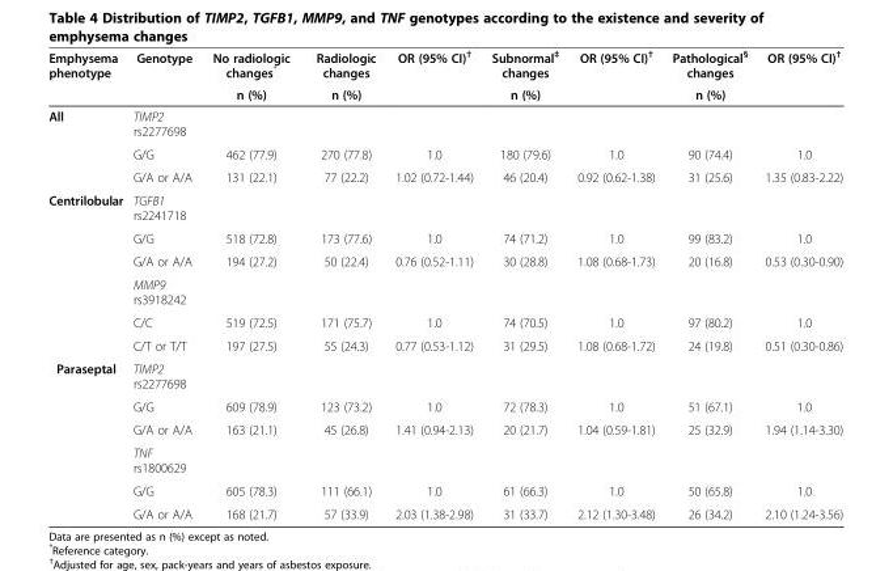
<table><thead><tr><td rowspan="2">Emphysema phenotype</td><td rowspan="2">Genotype</td><td rowspan="2">No radiologic changes* n (%)</td><td rowspan="2">Radiologic changes n (%)</td><td rowspan="2">OR (95% CI)<sup>†</sup></td><td rowspan="2">Subnormal<sup>‡</sup> changes n (%)</td><td rowspan="2">OR (95% CI)<sup>†</sup></td><td rowspan="2">Pathological<sup>§</sup> changes n (%)</td><td rowspan="2">OR (95% CI)<sup>†</sup></td></tr><tr></tr></thead><tbody><tr><td rowspan="3">All</td><td>TIMP2 rs2277698</td><td></td><td></td><td></td><td></td><td></td><td></td><td></td></tr><tr><td>G/G</td><td>462 (77.9)</td><td>270 (77.8)</td><td>1.0</td><td>180 (79.6)</td><td>1.0</td><td>90 (74.4)</td><td>1.0</td></tr><tr><td>G/A or A/A</td><td>131 (22.1)</td><td>77 (22.2)</td><td>1.02 (0.72-1.44)</td><td>46 (20.4)</td><td>0.92 (0.62-1.38)</td><td>31 (25.6)</td><td>1.35 (0.83-2.22)</td></tr><tr><td rowspan="6">Centrilobular</td><td>TGFB1 rs2241718</td><td></td><td></td><td></td><td></td><td></td><td></td><td></td></tr><tr><td>G/G</td><td>518 (72.8)</td><td>173 (77.6)</td><td>1.0</td><td>74 (71.2)</td><td>1.0</td><td>99 (83.2)</td><td>1.0</td></tr><tr><td>G/A or A/A</td><td>194 (27.2)</td><td>50 (22.4)</td><td>0.76 (0.52-1.11)</td><td>30 (28.8)</td><td>1.08 (0.68-1.73)</td><td>20 (16.8)</td><td>0.53 (0.30-0.90)</td></tr><tr><td>MMP9 rs3918242</td><td></td><td></td><td></td><td></td><td></td><td></td><td></td></tr><tr><td>C/C</td><td>519 (72.5)</td><td>171 (75.7)</td><td>1.0</td><td>74 (70.5)</td><td>1.0</td><td>97 (80.2)</td><td>1.0</td></tr><tr><td>C/T or T/T</td><td>197 (27.5)</td><td>55 (24.3)</td><td>0.77 (0.53-1.12)</td><td>31 (29.5)</td><td>1.08 (0.68-1.72)</td><td>24 (19.8)</td><td>0.51 (0.30-0.86)</td></tr><tr><td rowspan="6">Paraseptal</td><td>TIMP2 rs2277698</td><td></td><td></td><td></td><td></td><td></td><td></td><td></td></tr><tr><td>G/G</td><td>609 (78.9)</td><td>123 (73.2)</td><td>1.0</td><td>72 (78.3)</td><td>1.0</td><td>51 (67.1)</td><td>1.0</td></tr><tr><td>G/A or A/A</td><td>163 (21.1)</td><td>45 (26.8)</td><td>1.41 (0.94-2.13)</td><td>20 (21.7)</td><td>1.04 (0.59-1.81)</td><td>25 (32.9)</td><td>1.94 (1.14-3.30)</td></tr><tr><td>TNF rs1800629</td><td></td><td></td><td></td><td></td><td></td><td></td><td></td></tr><tr><td>G/G</td><td>605 (78.3)</td><td>111 (66.1)</td><td>1.0</td><td>61 (66.3)</td><td>1.0</td><td>50 (65.8)</td><td>1.0</td></tr><tr><td>G/A or A/A</td><td>168 (21.7)</td><td>57 (33.9)</td><td>2.03 (1.38-2.98)</td><td>31 (33.7)</td><td>2.12 (1.30-3.48)</td><td>26 (34.2)</td><td>2.10 (1.24-3.56)</td></tr></tbody></table>